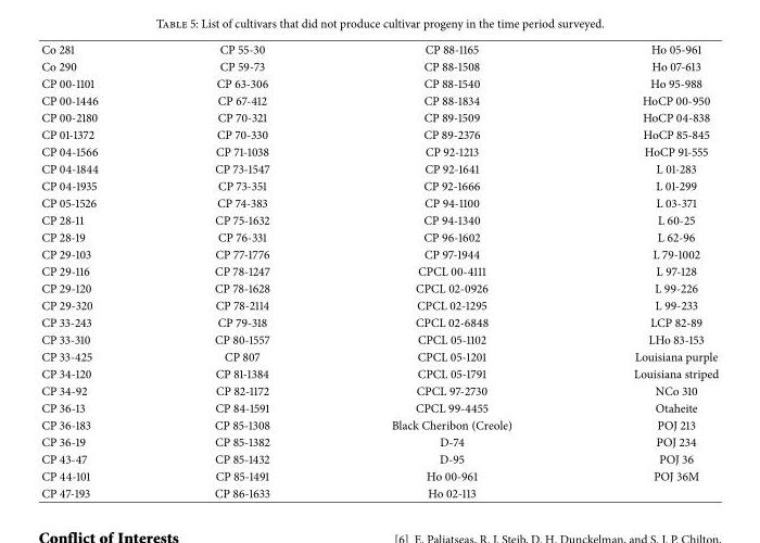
<table><tbody><tr><td>Co 281</td><td>CP 55-30</td><td>CP 88-1165</td><td>Ho 05-961</td></tr><tr><td>Co 290</td><td>CP 59-73</td><td>CP 88-1508</td><td>Ho 07-613</td></tr><tr><td>CP 00-1101</td><td>CP 63-306</td><td>CP 88-1540</td><td>Ho 95-988</td></tr><tr><td>CP 00-1446</td><td>CP 67-412</td><td>CP 88-1834</td><td>HoCP 00-950</td></tr><tr><td>CP 00-2180</td><td>CP 70-321</td><td>CP 89-1509</td><td>HoCP 04-838</td></tr><tr><td>CP 01-1372</td><td>CP 70-330</td><td>CP 89-2376</td><td>HoCP 85-845</td></tr><tr><td>CP 04-1566</td><td>CP 71-1038</td><td>CP 92-1213</td><td>HoCP 91-555</td></tr><tr><td>CP 04-1844</td><td>CP 73-1547</td><td>CP 92-1641</td><td>L 01-283</td></tr><tr><td>CP 04-1935</td><td>CP 73-351</td><td>CP 92-1666</td><td>L 01-299</td></tr><tr><td>CP 05-1526</td><td>CP 74-383</td><td>CP 94-1100</td><td>L 03-371</td></tr><tr><td>CP 28-11</td><td>CP 75-1632</td><td>CP 94-1340</td><td>L 60-25</td></tr><tr><td>CP 28-19</td><td>CP 76-331</td><td>CP 96-1602</td><td>L 62-96</td></tr><tr><td>CP 29-103</td><td>CP 77-1776</td><td>CP 97-1944</td><td>L 79-1002</td></tr><tr><td>CP 29-116</td><td>CP 78-1247</td><td>CPCL 00-4111</td><td>L 97-128</td></tr><tr><td>CP 29-120</td><td>CP 78-1628</td><td>CPCL 02-0926</td><td>L 99-226</td></tr><tr><td>CP 29-320</td><td>CP 78-2114</td><td>CPCL 02-1295</td><td>L 99-233</td></tr><tr><td>CP 33-243</td><td>CP 79-318</td><td>CPCL 02-6848</td><td>LCP 82-89</td></tr><tr><td>CP 33-310</td><td>CP 80-1557</td><td>CPCL 05-1102</td><td>LHo 83-153</td></tr><tr><td>CP 33-425</td><td>CP 807</td><td>CPCL 05-1201</td><td>Louisiana purple</td></tr><tr><td>CP 34-120</td><td>CP 81-1384</td><td>CPCL 05-1791</td><td>Louisiana striped</td></tr><tr><td>CP 34-92</td><td>CP 82-1172</td><td>CPCL 97-2730</td><td>NCo 310</td></tr><tr><td>CP 36-13</td><td>CP 84-1591</td><td>CPCL 99-4455</td><td>Otaheite</td></tr><tr><td>CP 36-183</td><td>CP 85-1308</td><td>Black Cheribon (Creole)</td><td>POJ 213</td></tr><tr><td>CP 36-19</td><td>CP 85-1382</td><td>D-74</td><td>POJ 234</td></tr><tr><td>CP 43-47</td><td>CP 85-1432</td><td>D-95</td><td>POJ 36</td></tr><tr><td>CP 44-101</td><td>CP 85-1491</td><td>Ho 00-961</td><td>POJ 36M</td></tr><tr><td>CP 47-193</td><td>CP 86-1633</td><td>Ho 02-113</td><td></td></tr></tbody></table>